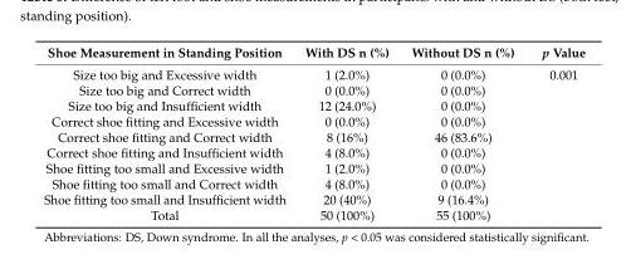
<table><thead><tr><td>Shoe Measurement in Standing Position</td><td>With DS n (%)</td><td>Without DS n (%)</td><td>p Value</td></tr></thead><tbody><tr><td>Size too big and Excessive width</td><td>1 (2.0%)</td><td>0 (0.0%)</td><td>0.001</td></tr><tr><td>Size too big and Correct width</td><td>0 (0.0%)</td><td>0 (0.0%)</td><td></td></tr><tr><td>Size too big and Insufficient width</td><td>12 (24.0%)</td><td>0 (0.0%)</td><td></td></tr><tr><td>Correct shoe fitting and Excessive width</td><td>0 (0.0%)</td><td>0 (0.0%)</td><td></td></tr><tr><td>Correct shoe fitting and Correct width</td><td>8 (16%)</td><td>46 (83.6%)</td><td></td></tr><tr><td>Correct shoe fitting and Insufficient width</td><td>4 (8.0%)</td><td>0 (0.0%)</td><td></td></tr><tr><td>Shoe fitting too small and Excessive width</td><td>1 (2.0%)</td><td>0 (0.0%)</td><td></td></tr><tr><td>Shoe fitting too small and Correct width</td><td>4 (8.0%)</td><td>0 (0.0%)</td><td></td></tr><tr><td>Shoe fitting too small and Insufficient width</td><td>20 (40%)</td><td>9 (16.4%)</td><td></td></tr><tr><td>Total</td><td>50 (100%)</td><td>55 (100%)</td><td></td></tr></tbody></table>